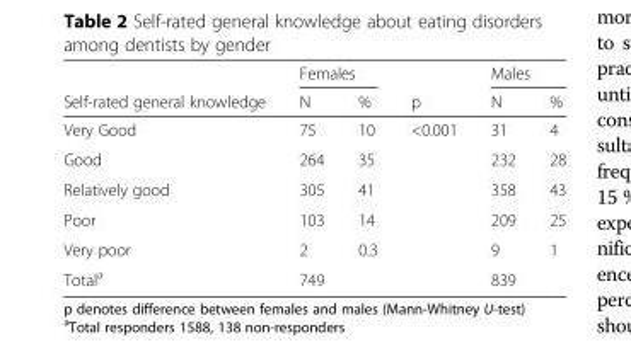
<table><thead><tr><td rowspan="2">Self-rated general knowledge</td><td colspan="2">Females</td><td rowspan="2">p</td><td colspan="2">Males</td></tr><tr><td>N</td><td>%</td><td>N</td><td>%</td></tr></thead><tbody><tr><td>Very Good</td><td>75</td><td>10</td><td rowspan="5">&lt;0.001</td><td>31</td><td>4</td></tr><tr><td>Good</td><td>264</td><td>35</td><td>232</td><td>28</td></tr><tr><td>Relatively good</td><td>305</td><td>41</td><td>358</td><td>43</td></tr><tr><td>Poor</td><td>103</td><td>14</td><td>209</td><td>25</td></tr><tr><td>Very poor</td><td>2</td><td>0.3</td><td>9</td><td>1</td></tr><tr><td>Total<sup>a</sup></td><td>749</td><td></td><td></td><td>839</td><td></td></tr></tbody></table>